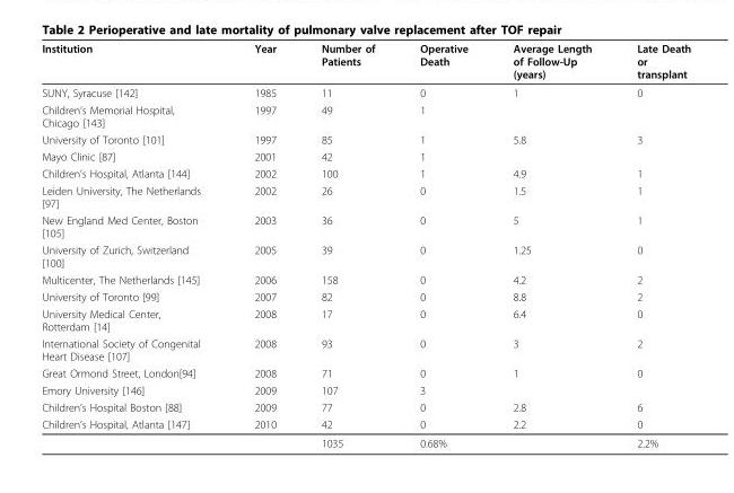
<table><thead><tr><td>Institution</td><td>Year</td><td>Number of Patients</td><td>Operative Death</td><td>Average Length of Follow-Up (years)</td><td>Late Death or transplant</td></tr></thead><tbody><tr><td>SUNY, Syracuse [142]</td><td>1985</td><td>11</td><td>0</td><td>1</td><td>0</td></tr><tr><td>Children’s Memorial Hospital, Chicago [143]</td><td>1997</td><td>49</td><td>1</td><td></td><td></td></tr><tr><td>University of Toronto [101]</td><td>1997</td><td>85</td><td>1</td><td>5.8</td><td>3</td></tr><tr><td>Mayo Clinic [87]</td><td>2001</td><td>42</td><td>1</td><td></td><td></td></tr><tr><td>Children’s Hospital, Atlanta [144]</td><td>2002</td><td>100</td><td>1</td><td>4.9</td><td>1</td></tr><tr><td>Leiden University, The Netherlands [97]</td><td>2002</td><td>26</td><td>0</td><td>1.5</td><td>1</td></tr><tr><td>New England Med Center, Boston [105]</td><td>2003</td><td>36</td><td>0</td><td>5</td><td>1</td></tr><tr><td>University of Zurich, Switzerland [100]</td><td>2005</td><td>39</td><td>0</td><td>1.25</td><td>0</td></tr><tr><td>Multicenter, The Netherlands [145]</td><td>2006</td><td>158</td><td>0</td><td>4.2</td><td>2</td></tr><tr><td>University of Toronto [99]</td><td>2007</td><td>82</td><td>0</td><td>8.8</td><td>2</td></tr><tr><td>University Medical Center, Rotterdam [14]</td><td>2008</td><td>17</td><td>0</td><td>6.4</td><td>0</td></tr><tr><td>International Society of Congenital Heart Disease [107]</td><td>2008</td><td>93</td><td>0</td><td>3</td><td>2</td></tr><tr><td>Great Ormond Street, London[94]</td><td>2008</td><td>71</td><td>0</td><td>1</td><td>0</td></tr><tr><td>Emory University [146]</td><td>2009</td><td>107</td><td>3</td><td></td><td></td></tr><tr><td>Children’s Hospital Boston [88]</td><td>2009</td><td>77</td><td>0</td><td>2.8</td><td>6</td></tr><tr><td rowspan="2">Children’s Hospital, Atlanta [147]</td><td>2010</td><td>42</td><td>0</td><td>2.2</td><td>0</td></tr><tr><td></td><td>1035</td><td>0.68%</td><td></td><td>2.2%</td></tr></tbody></table>